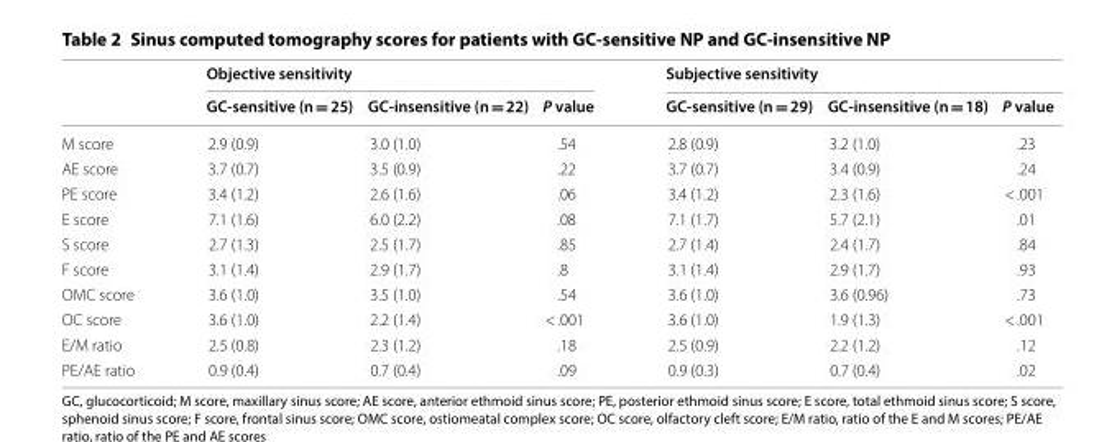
<table><thead><tr><td rowspan="2"></td><td colspan="3">Objective sensitivity</td><td colspan="3">Subjective sensitivity</td></tr><tr><td>GC-sensitive (n = 25)</td><td>GC-insensitive (n = 22)</td><td>P value</td><td>GC-sensitive (n = 29)</td><td>GC-insensitive (n = 18)</td><td>P value</td></tr></thead><tbody><tr><td>M score</td><td>2.9 (0.9)</td><td>3.0 (1.0)</td><td>.54</td><td>2.8 (0.9)</td><td>3.2 (1.0)</td><td>.23</td></tr><tr><td>AE score</td><td>3.7 (0.7)</td><td>3.5 (0.9)</td><td>.22</td><td>3.7 (0.7)</td><td>3.4 (0.9)</td><td>.24</td></tr><tr><td>PE score</td><td>3.4 (1.2)</td><td>2.6 (1.6)</td><td>.06</td><td>3.4 (1.2)</td><td>2.3 (1.6)</td><td>&lt; .001</td></tr><tr><td>E score</td><td>7.1 (1.6)</td><td>6.0 (2.2)</td><td>.08</td><td>7.1 (1.7)</td><td>5.7 (2.1)</td><td>.01</td></tr><tr><td>S score</td><td>2.7 (1.3)</td><td>2.5 (1.7)</td><td>.85</td><td>2.7 (1.4)</td><td>2.4 (1.7)</td><td>.84</td></tr><tr><td>F score</td><td>3.1 (1.4)</td><td>2.9 (1.7)</td><td>.8</td><td>3.1 (1.4)</td><td>2.9 (1.7)</td><td>.93</td></tr><tr><td>OMC score</td><td>3.6 (1.0)</td><td>3.5 (1.0)</td><td>.54</td><td>3.6 (1.0)</td><td>3.6 (0.96)</td><td>.73</td></tr><tr><td>OC score</td><td>3.6 (1.0)</td><td>2.2 (1.4)</td><td>&lt; .001</td><td>3.6 (1.0)</td><td>1.9 (1.3)</td><td>&lt; .001</td></tr><tr><td>E/M ratio</td><td>2.5 (0.8)</td><td>2.3 (1.2)</td><td>.18</td><td>2.5 (0.9)</td><td>2.2 (1.2)</td><td>.12</td></tr><tr><td>PE/AE ratio</td><td>0.9 (0.4)</td><td>0.7 (0.4)</td><td>.09</td><td>0.9 (0.3)</td><td>0.7 (0.4)</td><td>.02</td></tr></tbody></table>